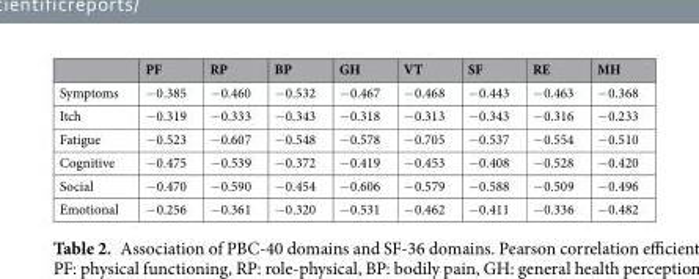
<table><thead><tr><td></td><td>PF</td><td>RP</td><td>BP</td><td>GH</td><td>VT</td><td>SF</td><td>RE</td><td>MH</td></tr></thead><tbody><tr><td>Symptoms</td><td>−0.385</td><td>−0.460</td><td>−0.532</td><td>−0.467</td><td>−0.468</td><td>−0.443</td><td>−0.463</td><td>−0.368</td></tr><tr><td>Itch</td><td>−0.319</td><td>−0.333</td><td>−0.343</td><td>−0.318</td><td>−0.313</td><td>−0.343</td><td>−0.316</td><td>−0.233</td></tr><tr><td>Fatigue</td><td>−0.523</td><td>−0.607</td><td>−0.548</td><td>−0.578</td><td>−0.705</td><td>−0.537</td><td>−0.554</td><td>−0.510</td></tr><tr><td>Cognitive</td><td>−0.475</td><td>−0.539</td><td>−0.372</td><td>−0.419</td><td>−0.453</td><td>−0.408</td><td>−0.528</td><td>−0.420</td></tr><tr><td>Social</td><td>−0.470</td><td>−0.590</td><td>−0.454</td><td>−0.606</td><td>−0.579</td><td>−0.588</td><td>−0.509</td><td>−0.496</td></tr><tr><td>Emotional</td><td>−0.256</td><td>−0.361</td><td>−0.320</td><td>−0.531</td><td>−0.462</td><td>−0.411</td><td>−0.336</td><td>−0.482</td></tr></tbody></table>